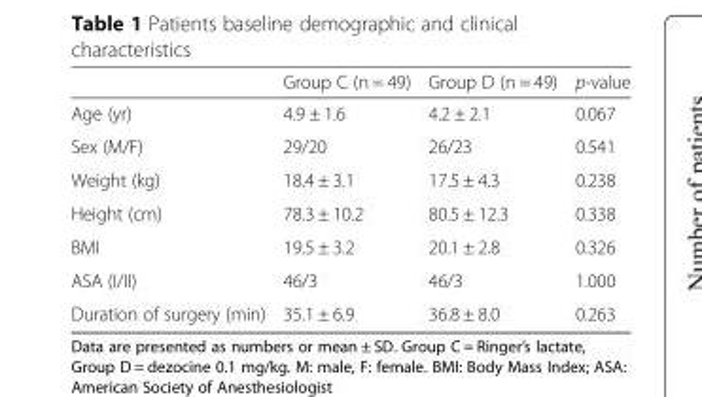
<table><thead><tr><td></td><td>Group C (n = 49)</td><td>Group D (n = 49)</td><td>p-value</td></tr></thead><tbody><tr><td>Age (yr)</td><td>4.9 ± 1.6</td><td>4.2 ± 2.1</td><td>0.067</td></tr><tr><td>Sex (M/F)</td><td>29/20</td><td>26/23</td><td>0.541</td></tr><tr><td>Weight (kg)</td><td>18.4 ± 3.1</td><td>17.5 ± 4.3</td><td>0.238</td></tr><tr><td>Height (cm)</td><td>78.3 ± 10.2</td><td>80.5 ± 12.3</td><td>0.338</td></tr><tr><td>BMI</td><td>19.5 ± 3.2</td><td>20.1 ± 2.8</td><td>0.326</td></tr><tr><td>ASA (I/II)</td><td>46/3</td><td>46/3</td><td>1.000</td></tr><tr><td>Duration of surgery (min)</td><td>35.1 ± 6.9</td><td>36.8 ± 8.0</td><td>0.263</td></tr></tbody></table>